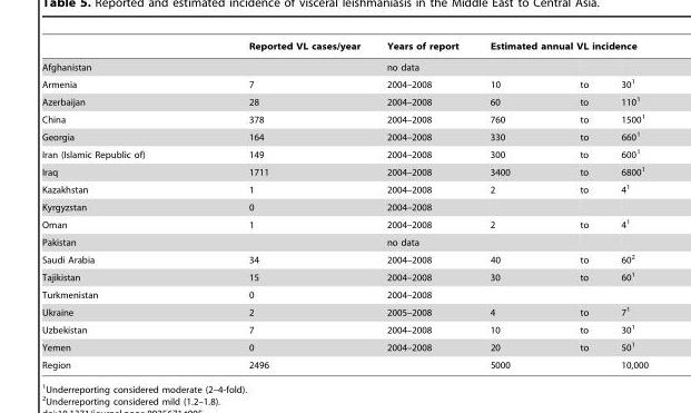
<table><thead><tr><td rowspan="2">Afghanistan</td><td rowspan="2">Reported VL cases/year</td><td rowspan="2">Years of report no data</td><td colspan="3">Estimated annual VL incidence</td></tr><tr><td></td><td></td><td></td></tr></thead><tbody><tr><td>Armenia</td><td>7</td><td>2004–2008</td><td>10</td><td>to</td><td>30<sup>1</sup></td></tr><tr><td>Azerbaijan</td><td>28</td><td>2004–2008</td><td>60</td><td>to</td><td>110<sup>1</sup></td></tr><tr><td>China</td><td>378</td><td>2004–2008</td><td>760</td><td>to</td><td>1500<sup>1</sup></td></tr><tr><td>Georgia</td><td>164</td><td>2004–2008</td><td>330</td><td>to</td><td>660<sup>1</sup></td></tr><tr><td>Iran (Islamic Republic of)</td><td>149</td><td>2004–2008</td><td>300</td><td>to</td><td>600<sup>1</sup></td></tr><tr><td>Iraq</td><td>1711</td><td>2004–2008</td><td>3400</td><td>to</td><td>6800<sup>1</sup></td></tr><tr><td>Kazakhstan</td><td>1</td><td>2004–2008</td><td>2</td><td>to</td><td>4<sup>1</sup></td></tr><tr><td>Kyrgyzstan</td><td>0</td><td>2004–2008</td><td></td><td></td><td></td></tr><tr><td>Oman</td><td>1</td><td>2004–2008</td><td>2</td><td>to</td><td>4<sup>1</sup></td></tr><tr><td>Pakistan</td><td></td><td>no data</td><td></td><td></td><td></td></tr><tr><td>Saudi Arabia</td><td>34</td><td>2004–2008</td><td>40</td><td>to</td><td>60<sup>2</sup></td></tr><tr><td>Tajikistan</td><td>15</td><td>2004–2008</td><td>30</td><td>to</td><td>60<sup>1</sup></td></tr><tr><td>Turkmenistan</td><td>0</td><td>2004–2008</td><td></td><td></td><td></td></tr><tr><td>Ukraine</td><td>2</td><td>2005–2008</td><td>4</td><td>to</td><td>7<sup>1</sup></td></tr><tr><td>Uzbekistan</td><td>7</td><td>2004–2008</td><td>10</td><td>to</td><td>30<sup>1</sup></td></tr><tr><td>Yemen</td><td>0</td><td>2004–2008</td><td>20</td><td>to</td><td>50<sup>1</sup></td></tr><tr><td>Region</td><td>2496</td><td></td><td>5000</td><td></td><td>10,000</td></tr></tbody></table>